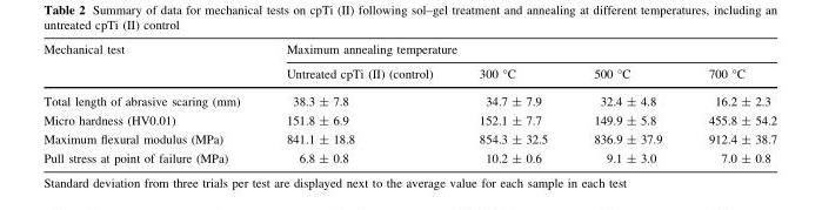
<table><thead><tr><td rowspan="2">Mechanical test</td><td colspan="4">Maximum annealing temperature</td></tr><tr><td>Untreated cpTi (II) (control)</td><td>300 °C</td><td>500 °C</td><td>700 °C</td></tr></thead><tbody><tr><td>Total length of abrasive scaring (mm)</td><td>38.3 ± 7.8</td><td>34.7 ± 7.9</td><td>32.4 ± 4.8</td><td>16.2 ± 2.3</td></tr><tr><td>Micro hardness (HV0.01)</td><td>151.8 ± 6.9</td><td>152.1 ± 7.7</td><td>149.9 ± 5.8</td><td>455.8 ± 54.2</td></tr><tr><td>Maximum flexural modulus (MPa)</td><td>841.1 ± 18.8</td><td>854.3 ± 32.5</td><td>836.9 ± 37.9</td><td>912.4 ± 38.7</td></tr><tr><td>Pull stress at point of failure (MPa)</td><td>6.8 ± 0.8</td><td>10.2 ± 0.6</td><td>9.1 ± 3.0</td><td>7.0 ± 0.8</td></tr></tbody></table>